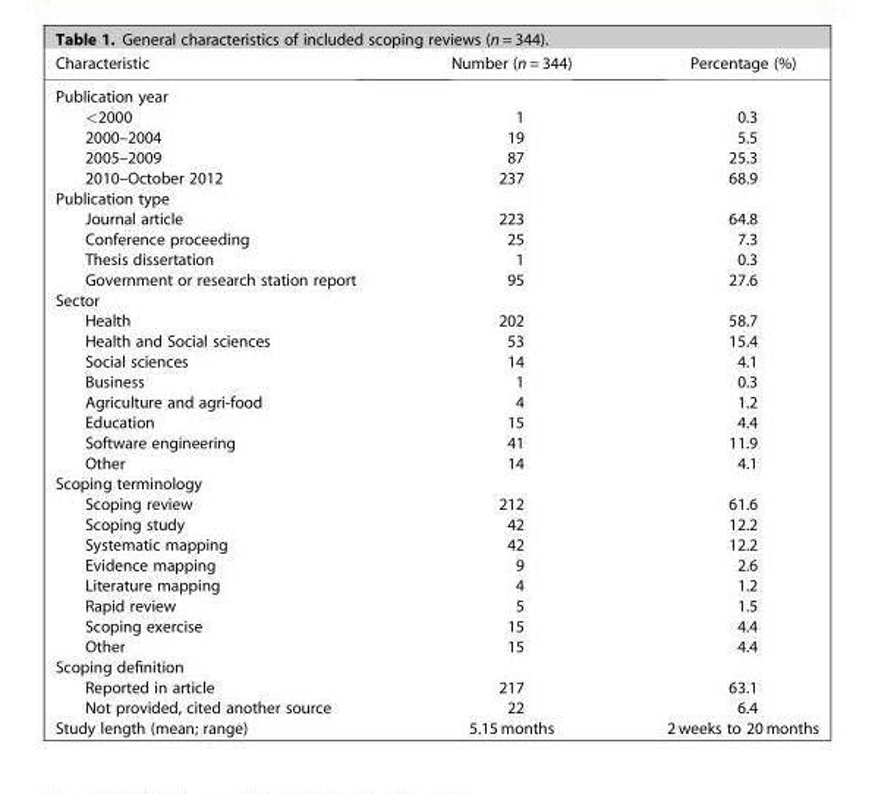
<table><thead><tr><td>Characteristic</td><td>Number (n = 344)</td><td>Percentage (%)</td></tr></thead><tbody><tr><td colspan="3">Publication year</td></tr><tr><td>&lt;2000</td><td>1</td><td>0.3</td></tr><tr><td>2000–2004</td><td>19</td><td>5.5</td></tr><tr><td>2005–2009</td><td>87</td><td>25.3</td></tr><tr><td>2010–October 2012</td><td>237</td><td>68.9</td></tr><tr><td colspan="3">Publication type</td></tr><tr><td>Journal article</td><td>223</td><td>64.8</td></tr><tr><td>Conference proceeding</td><td>25</td><td>7.3</td></tr><tr><td>Thesis dissertation</td><td>1</td><td>0.3</td></tr><tr><td>Government or research station report</td><td>95</td><td>27.6</td></tr><tr><td colspan="3">Sector</td></tr><tr><td>Health</td><td>202</td><td>58.7</td></tr><tr><td>Health and Social sciences</td><td>53</td><td>15.4</td></tr><tr><td>Social sciences</td><td>14</td><td>4.1</td></tr><tr><td>Business</td><td>1</td><td>0.3</td></tr><tr><td>Agriculture and agri-food</td><td>4</td><td>1.2</td></tr><tr><td>Education</td><td>15</td><td>4.4</td></tr><tr><td>Software engineering</td><td>41</td><td>11.9</td></tr><tr><td>Other</td><td>14</td><td>4.1</td></tr><tr><td colspan="3">Scoping terminology</td></tr><tr><td>Scoping review</td><td>212</td><td>61.6</td></tr><tr><td>Scoping study</td><td>42</td><td>12.2</td></tr><tr><td>Systematic mapping</td><td>42</td><td>12.2</td></tr><tr><td>Evidence mapping</td><td>9</td><td>2.6</td></tr><tr><td>Literature mapping</td><td>4</td><td>1.2</td></tr><tr><td>Rapid review</td><td>5</td><td>1.5</td></tr><tr><td>Scoping exercise</td><td>15</td><td>4.4</td></tr><tr><td>Other</td><td>15</td><td>4.4</td></tr><tr><td colspan="3">Scoping definition</td></tr><tr><td>Reported in article</td><td>217</td><td>63.1</td></tr><tr><td>Not provided, cited another source</td><td>22</td><td>6.4</td></tr><tr><td>Study length (mean; range)</td><td>5.15 months</td><td>2 weeks to 20 months</td></tr></tbody></table>